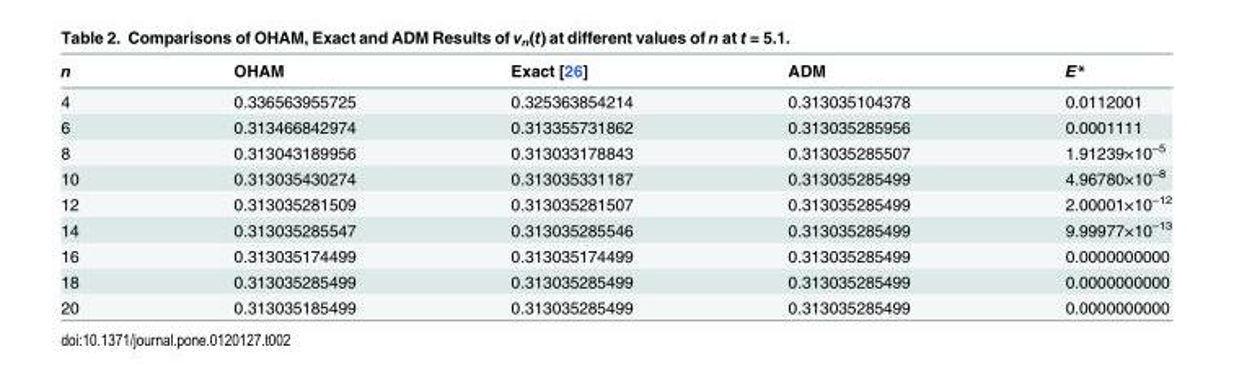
<table><thead><tr><td>n</td><td>OHAM</td><td>Exact [26]</td><td>ADM</td><td>E*</td></tr></thead><tbody><tr><td>4</td><td>0.336563955725</td><td>0.325363854214</td><td>0.313035104378</td><td>0.0112001</td></tr><tr><td>6</td><td>0.313466842974</td><td>0.313355731862</td><td>0.313035285956</td><td>0.0001111</td></tr><tr><td>8</td><td>0.313043189956</td><td>0.313033178843</td><td>0.313035285507</td><td>1.91239×10<sup>–5</sup></td></tr><tr><td>10</td><td>0.313035430274</td><td>0.313035331187</td><td>0.313035285499</td><td>4.96780×10<sup>–8</sup></td></tr><tr><td>12</td><td>0.313035281509</td><td>0.313035281507</td><td>0.313035285499</td><td>2.00001×10<sup>–12</sup></td></tr><tr><td>14</td><td>0.313035285547</td><td>0.313035285546</td><td>0.313035285499</td><td>9.99977×10<sup>–13</sup></td></tr><tr><td>16</td><td>0.313035174499</td><td>0.313035174499</td><td>0.313035285499</td><td>0.0000000000</td></tr><tr><td>18</td><td>0.313035285499</td><td>0.313035285499</td><td>0.313035285499</td><td>0.0000000000</td></tr><tr><td>20</td><td>0.313035185499</td><td>0.313035285499</td><td>0.313035285499</td><td>0.0000000000</td></tr></tbody></table>